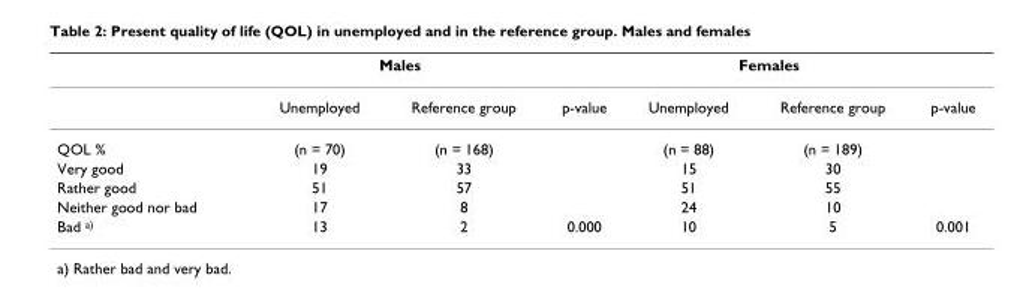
<table><thead><tr><td rowspan="2"></td><td colspan="2">Males</td><td rowspan="2">p-value</td><td colspan="2">Females</td><td rowspan="2">p-value</td></tr><tr><td>Unemployed</td><td>Reference group</td><td>Unemployed</td><td>Reference group</td></tr></thead><tbody><tr><td>QOL %</td><td>(n = 70)</td><td>(n = 168)</td><td></td><td>(n = 88)</td><td>(n = 189)</td><td></td></tr><tr><td>Very good</td><td>19</td><td>33</td><td></td><td>15</td><td>30</td><td></td></tr><tr><td>Rather good</td><td>51</td><td>57</td><td></td><td>51</td><td>55</td><td></td></tr><tr><td>Neither good nor bad</td><td>17</td><td>8</td><td></td><td>24</td><td>10</td><td></td></tr><tr><td>Bad <sup>a)</sup></td><td>13</td><td>2</td><td>0.000</td><td>10</td><td>5</td><td>0.001</td></tr></tbody></table>